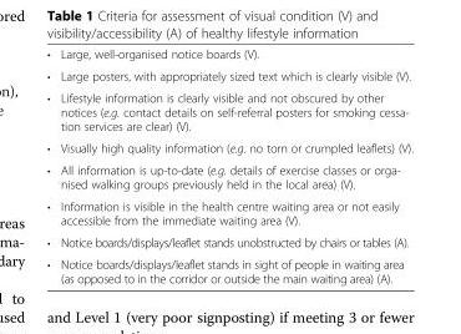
<table><tbody><tr><td>•</td><td>Large, well-organised notice boards (V).</td></tr><tr><td>•</td><td>Large posters, with appropriately sized text which is clearly visible (V).</td></tr><tr><td>•</td><td>Lifestyle information is clearly visible and not obscured by other notices (e.g. contact details on self-referral posters for smoking cessa- tion services are clear) (V).</td></tr><tr><td>•</td><td>Visually high quality information (e.g. no torn or crumpled leaflets) (V).</td></tr><tr><td>•</td><td>All information is up-to-date (e.g. details of exercise classes or orga- nised walking groups previously held in the local area) (V).</td></tr><tr><td>•</td><td>Information is visible in the health centre waiting area or not easily accessible from the immediate waiting area (V).</td></tr><tr><td>•</td><td>Notice boards/displays/leaflet stands unobstructed by chairs or tables (A).</td></tr><tr><td>•</td><td>Notice boards/displays/leaflet stands in sight of people in waiting area (as opposed to in the corridor or outside the main waiting area) (A).</td></tr></tbody></table>